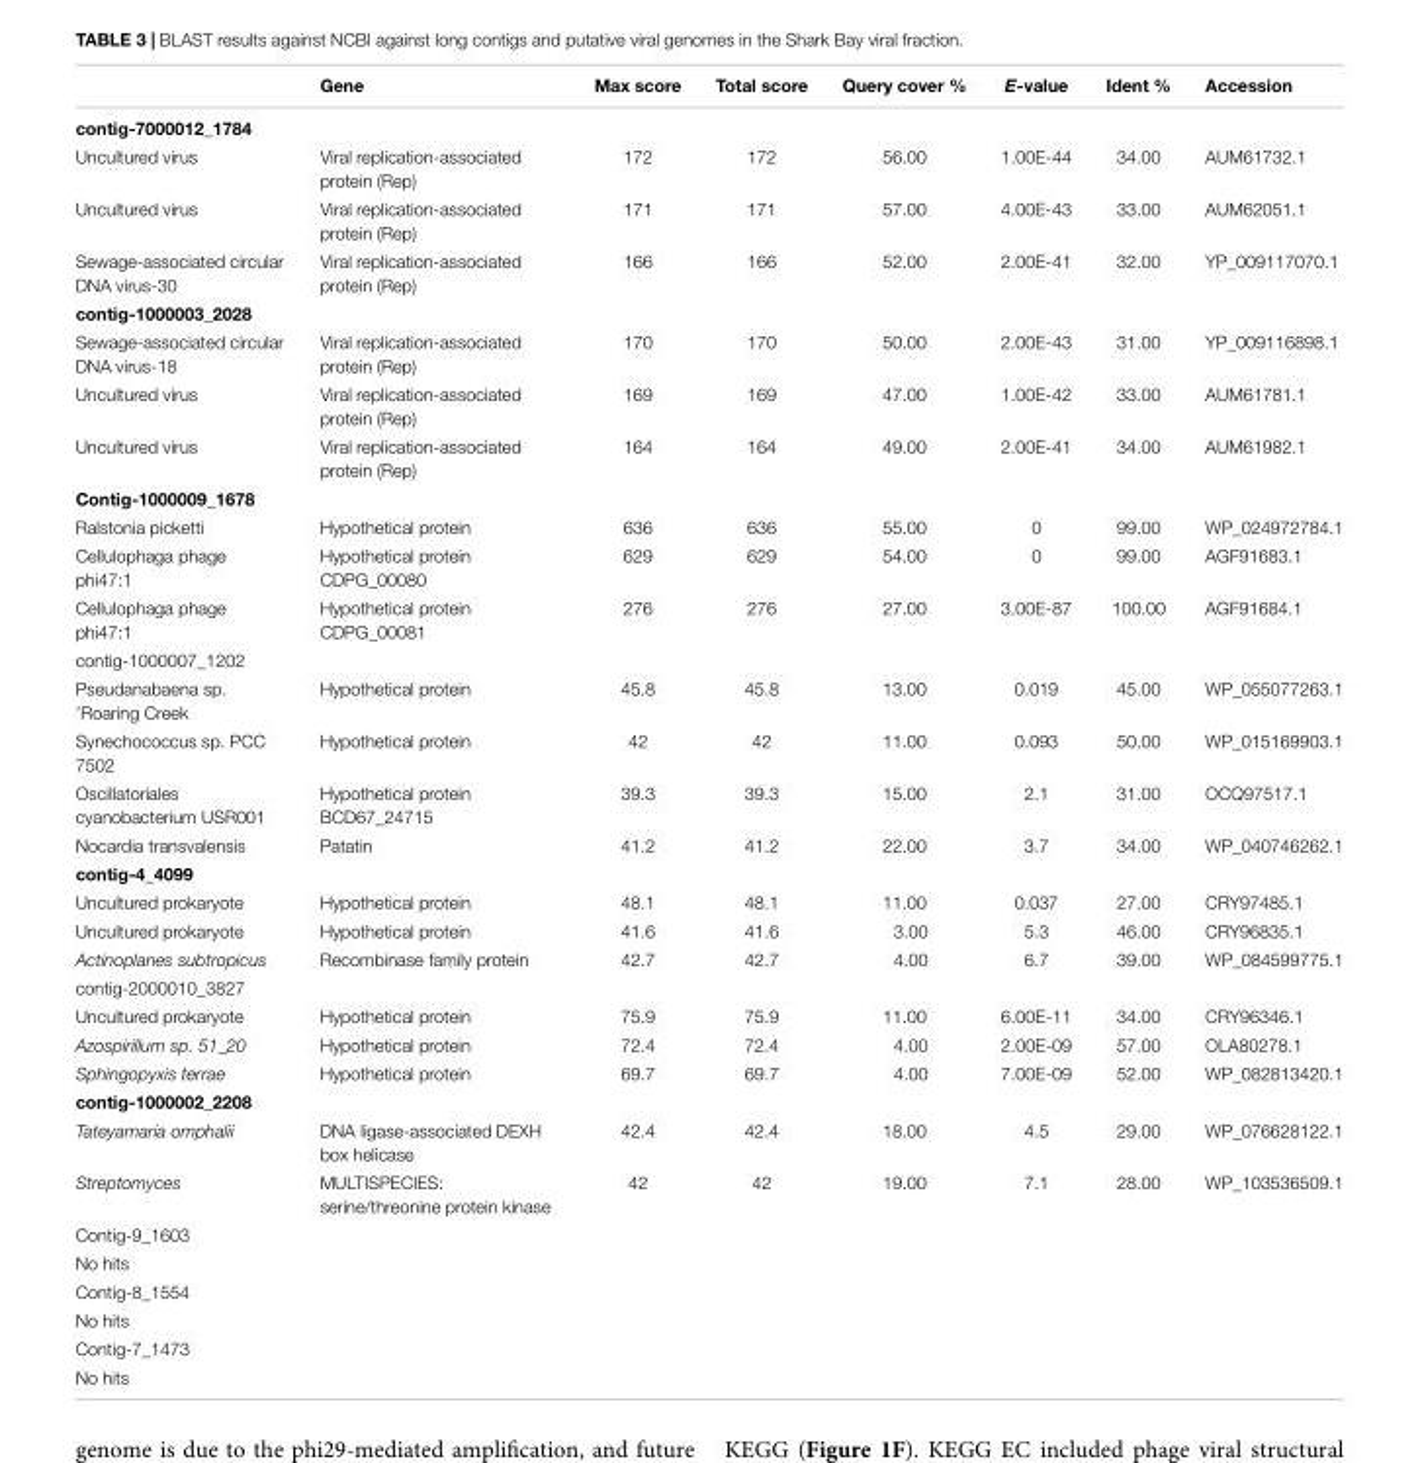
<table><thead><tr><td></td><td>Gene</td><td>Max score</td><td>Total score</td><td>Query cover %</td><td>E-value</td><td>Ident %</td><td>Accession</td></tr></thead><tbody><tr><td colspan="8">contig-7000012_1784</td></tr><tr><td>Uncultured virus</td><td>Viral replication-associated protein (Rep)</td><td>172</td><td>172</td><td>56.00</td><td>1.00E-44</td><td>34.00</td><td>AUM61732.1</td></tr><tr><td>Uncultured virus</td><td>Viral replication-associated protein (Rep)</td><td>171</td><td>171</td><td>57.00</td><td>4.00E-43</td><td>33.00</td><td>AUM62051.1</td></tr><tr><td>Sewage-associated circular DNA virus-30</td><td>Viral replication-associated protein (Rep)</td><td>166</td><td>166</td><td>52.00</td><td>2.00E-41</td><td>32.00</td><td>YP_009117070.1</td></tr><tr><td colspan="8">contig-1000003_2028</td></tr><tr><td>Sewage-associated circular DNA virus-18</td><td>Viral replication-associated protein (Rep)</td><td>170</td><td>170</td><td>50.00</td><td>2.00E-43</td><td>31.00</td><td>YP_009116898.1</td></tr><tr><td>Uncultured virus</td><td>Viral replication-associated protein (Rep)</td><td>169</td><td>169</td><td>47.00</td><td>1.00E-42</td><td>33.00</td><td>AUM61781.1</td></tr><tr><td>Uncultured virus</td><td>Viral replication-associated protein (Rep)</td><td>164</td><td>164</td><td>49.00</td><td>2.00E-41</td><td>34.00</td><td>AUM61982.1</td></tr><tr><td colspan="8">Contig-1000009_1678</td></tr><tr><td>Ralstonia picketti</td><td>Hypothetical protein</td><td>636</td><td>636</td><td>55.00</td><td>0</td><td>99.00</td><td>WP_024972784.1</td></tr><tr><td>Cellulophaga phage phi47:1</td><td>Hypothetical protein CDPG_00080</td><td>629</td><td>629</td><td>54.00</td><td>0</td><td>99.00</td><td>AGF91683.1</td></tr><tr><td>Cellulophaga phage phi47:1</td><td>Hypothetical protein CDPG_00081</td><td>276</td><td>276</td><td>27.00</td><td>3.00E-87</td><td>100.00</td><td>AGF91684.1</td></tr><tr><td colspan="8">contig-1000007_1202</td></tr><tr><td>Pseudanabaena sp. ’Roaring Creek</td><td>Hypothetical protein</td><td>45.8</td><td>45.8</td><td>13.00</td><td>0.019</td><td>45.00</td><td>WP_055077263.1</td></tr><tr><td>Synechococcus sp. PCC 7502</td><td>Hypothetical protein</td><td>42</td><td>42</td><td>11.00</td><td>0.093</td><td>50.00</td><td>WP_015169903.1</td></tr><tr><td>Oscillatoriales cyanobacterium USR001</td><td>Hypothetical protein BCD67_24715</td><td>39.3</td><td>39.3</td><td>15.00</td><td>2.1</td><td>31.00</td><td>OCQ97517.1</td></tr><tr><td>Nocardia transvalensis</td><td>Patatin</td><td>41.2</td><td>41.2</td><td>22.00</td><td>3.7</td><td>34.00</td><td>WP_040746262.1</td></tr><tr><td colspan="8">contig-4_4099</td></tr><tr><td>Uncultured prokaryote</td><td>Hypothetical protein</td><td>48.1</td><td>48.1</td><td>11.00</td><td>0.037</td><td>27.00</td><td>CRY97485.1</td></tr><tr><td>Uncultured prokaryote</td><td>Hypothetical protein</td><td>41.6</td><td>41.6</td><td>3.00</td><td>5.3</td><td>46.00</td><td>CRY96835.1</td></tr><tr><td>Actinoplanes subtropicus</td><td>Recombinase family protein</td><td>42.7</td><td>42.7</td><td>4.00</td><td>6.7</td><td>39.00</td><td>WP_084599775.1</td></tr><tr><td colspan="8">contig-2000010_3827</td></tr><tr><td>Uncultured prokaryote</td><td>Hypothetical protein</td><td>75.9</td><td>75.9</td><td>11.00</td><td>6.00E-11</td><td>34.00</td><td>CRY96346.1</td></tr><tr><td>Azospirillum sp. 51_20</td><td>Hypothetical protein</td><td>72.4</td><td>72.4</td><td>4.00</td><td>2.00E-09</td><td>57.00</td><td>OLA80278.1</td></tr><tr><td>Sphingopyxis terrae</td><td>Hypothetical protein</td><td>69.7</td><td>69.7</td><td>4.00</td><td>7.00E-09</td><td>52.00</td><td>WP_082813420.1</td></tr><tr><td colspan="8">contig-1000002_2208</td></tr><tr><td>Tateyamaria omphalii</td><td>DNA ligase-associated DEXH box helicase</td><td>42.4</td><td>42.4</td><td>18.00</td><td>4.5</td><td>29.00</td><td>WP_076628122.1</td></tr><tr><td>Streptomyces</td><td>MULTISPECIES: serine/threonine protein kinase</td><td>42</td><td>42</td><td>19.00</td><td>7.1</td><td>28.00</td><td>WP_103536509.1</td></tr><tr><td colspan="8">Contig-9_1603</td></tr><tr><td colspan="8">No hits</td></tr><tr><td colspan="8">Contig-8_1554</td></tr><tr><td colspan="8">No hits</td></tr><tr><td colspan="8">Contig-7_1473</td></tr><tr><td>No hits</td><td></td><td></td><td></td><td></td><td></td><td></td><td></td></tr></tbody></table>